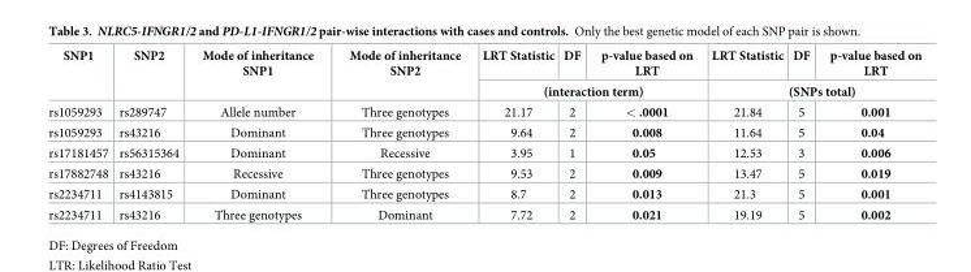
<table><thead><tr><td rowspan="2">SNP1</td><td rowspan="2">SNP2</td><td rowspan="2">Mode of inheritance SNP1</td><td rowspan="2">Mode of inheritance SNP2</td><td>LRT Statistic</td><td>DF</td><td>p-value based on LRT</td><td>LRT Statistic</td><td>DF</td><td>p-value based on LRT</td></tr><tr><td colspan="3">(interaction term)</td><td colspan="3">(SNPs total)</td></tr></thead><tbody><tr><td>rs1059293</td><td>rs289747</td><td>Allele number</td><td>Three genotypes</td><td>21.17</td><td>2</td><td>&lt; .0001</td><td>21.84</td><td>5</td><td>0.001</td></tr><tr><td>rs1059293</td><td>rs43216</td><td>Dominant</td><td>Three genotypes</td><td>9.64</td><td>2</td><td>0.008</td><td>11.64</td><td>5</td><td>0.04</td></tr><tr><td>rs17181457</td><td>rs56315364</td><td>Dominant</td><td>Recessive</td><td>3.95</td><td>1</td><td>0.05</td><td>12.53</td><td>3</td><td>0.006</td></tr><tr><td>rs17882748</td><td>rs43216</td><td>Recessive</td><td>Three genotypes</td><td>9.53</td><td>2</td><td>0.009</td><td>13.47</td><td>5</td><td>0.019</td></tr><tr><td>rs2234711</td><td>rs4143815</td><td>Dominant</td><td>Three genotypes</td><td>8.7</td><td>2</td><td>0.013</td><td>21.3</td><td>5</td><td>0.001</td></tr><tr><td>rs2234711</td><td>rs43216</td><td>Three genotypes</td><td>Dominant</td><td>7.72</td><td>2</td><td>0.021</td><td>19.19</td><td>5</td><td>0.002</td></tr></tbody></table>